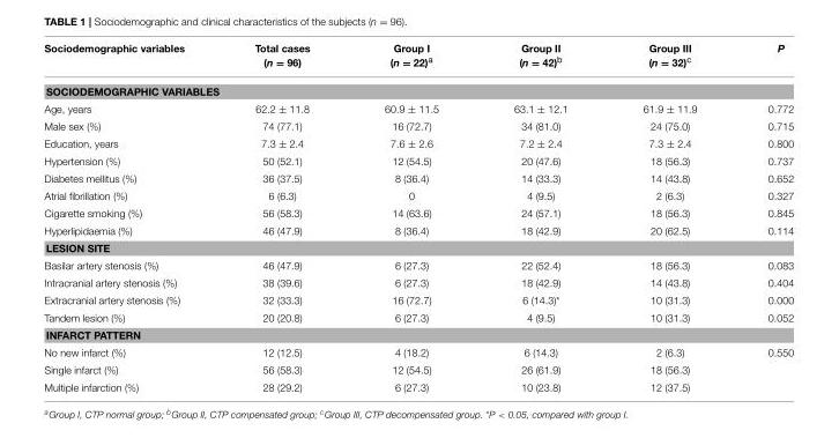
<table><thead><tr><td>Sociodemographic variables</td><td>Total cases (n = 96)</td><td>Group I (n = 22)<sup>a</sup></td><td>Group II (n = 42)<sup>b</sup></td><td>Group III (n = 32)<sup>c</sup></td><td>P</td></tr></thead><tbody><tr><td colspan="6">SOCIODEMOGRAPHIC VARIABLES</td></tr><tr><td>Age, years</td><td>62.2 ± 11.8</td><td>60.9 ± 11.5</td><td>63.1 ± 12.1</td><td>61.9 ± 11.9</td><td>0.772</td></tr><tr><td>Male sex (%)</td><td>74 (77.1)</td><td>16 (72.7)</td><td>34 (81.0)</td><td>24 (75.0)</td><td>0.715</td></tr><tr><td>Education, years</td><td>7.3 ± 2.4</td><td>7.6 ± 2.6</td><td>7.2 ± 2.4</td><td>7.3 ± 2.4</td><td>0.800</td></tr><tr><td>Hypertension (%)</td><td>50 (52.1)</td><td>12 (54.5)</td><td>20 (47.6)</td><td>18 (56.3)</td><td>0.737</td></tr><tr><td>Diabetes mellitus (%)</td><td>36 (37.5)</td><td>8 (36.4)</td><td>14 (33.3)</td><td>14 (43.8)</td><td>0.652</td></tr><tr><td>Atrial fibrillation (%)</td><td>6 (6.3)</td><td>0</td><td>4 (9.5)</td><td>2 (6.3)</td><td>0.327</td></tr><tr><td>Cigarette smoking (%)</td><td>56 (58.3)</td><td>14 (63.6)</td><td>24 (57.1)</td><td>18 (56.3)</td><td>0.845</td></tr><tr><td>Hyperlipidaemia (%)</td><td>46 (47.9)</td><td>8 (36.4)</td><td>18 (42.9)</td><td>20 (62.5)</td><td>0.114</td></tr><tr><td colspan="6">LESION SITE</td></tr><tr><td>Basilar artery stenosis (%)</td><td>46 (47.9)</td><td>6 (27.3)</td><td>22 (52.4)</td><td>18 (56.3)</td><td>0.083</td></tr><tr><td>Intracranial artery stenosis (%)</td><td>38 (39.6)</td><td>6 (27.3)</td><td>18 (42.9)</td><td>14 (43.8)</td><td>0.404</td></tr><tr><td>Extracranial artery stenosis (%)</td><td>32 (33.3)</td><td>16 (72.7)</td><td>6 (14.3)*</td><td>10 (31.3)</td><td>0.000</td></tr><tr><td>Tandem lesion (%)</td><td>20 (20.8)</td><td>6 (27.3)</td><td>4 (9.5)</td><td>10 (31.3)</td><td>0.052</td></tr><tr><td colspan="6">INFARCT PATTERN</td></tr><tr><td>No new infarct (%)</td><td>12 (12.5)</td><td>4 (18.2)</td><td>6 (14.3)</td><td>2 (6.3)</td><td>0.550</td></tr><tr><td>Single infarct (%)</td><td>56 (58.3)</td><td>12 (54.5)</td><td>26 (61.9)</td><td>18 (56.3)</td><td></td></tr><tr><td>Multiple infarction (%)</td><td>28 (29.2)</td><td>6 (27.3)</td><td>10 (23.8)</td><td>12 (37.5)</td><td></td></tr></tbody></table>